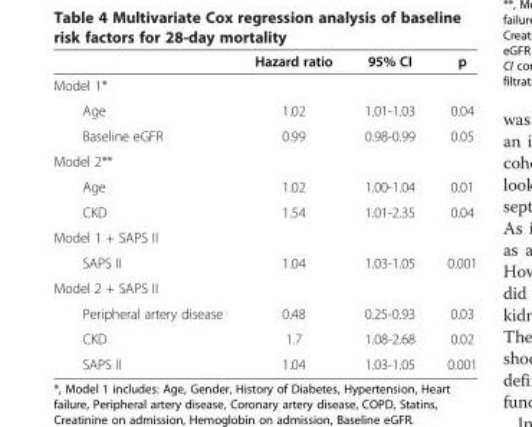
<table><thead><tr><td></td><td>Hazard ratio</td><td>95% CI</td><td>p</td></tr></thead><tbody><tr><td colspan="4">Model 1*</td></tr><tr><td>Age</td><td>1.02</td><td>1.01-1.03</td><td>0.04</td></tr><tr><td>Baseline eGFR</td><td>0.99</td><td>0.98-0.99</td><td>0.05</td></tr><tr><td colspan="4">Model 2**</td></tr><tr><td>Age</td><td>1.02</td><td>1.00-1.04</td><td>0.01</td></tr><tr><td>CKD</td><td>1.54</td><td>1.01-2.35</td><td>0.04</td></tr><tr><td colspan="4">Model 1 + SAPS II</td></tr><tr><td>SAPS II</td><td>1.04</td><td>1.03-1.05</td><td>0.001</td></tr><tr><td colspan="4">Model 2 + SAPS II</td></tr><tr><td>Peripheral artery disease</td><td>0.48</td><td>0.25-0.93</td><td>0.03</td></tr><tr><td>CKD</td><td>1.7</td><td>1.08-2.68</td><td>0.02</td></tr><tr><td>SAPS II</td><td>1.04</td><td>1.03-1.05</td><td>0.001</td></tr></tbody></table>